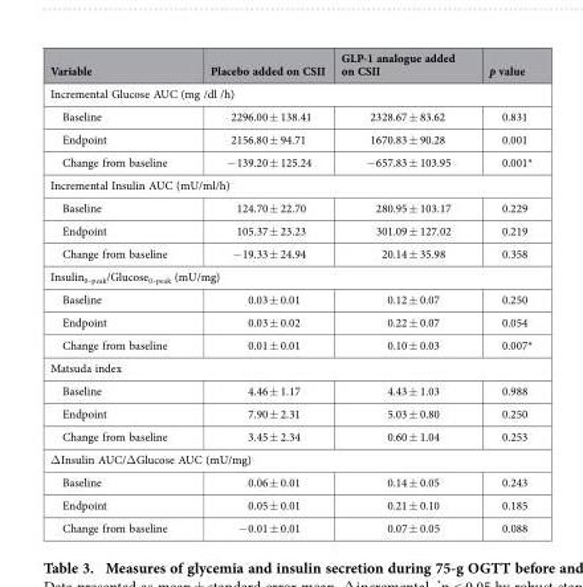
<table><thead><tr><td>Variable</td><td>Placebo added on CSII</td><td>GLP-1 analogue added on CSII</td><td>p value</td></tr></thead><tbody><tr><td colspan="4">Incremental Glucose AUC (mg /dl /h)</td></tr><tr><td>Baseline</td><td>2296.00 ± 138.41</td><td>2328.67 ± 83.62</td><td>0.831</td></tr><tr><td>Endpoint</td><td>2156.80 ± 94.71</td><td>1670.83 ± 90.28</td><td>0.001</td></tr><tr><td>Change from baseline</td><td>− 139.20 ± 125.24</td><td>− 657.83 ± 103.95</td><td>0.001*</td></tr><tr><td colspan="4">Incremental Insulin AUC (mU/ml/h)</td></tr><tr><td>Baseline</td><td>124.70 ± 22.70</td><td>280.95 ± 103.17</td><td>0.229</td></tr><tr><td>Endpoint</td><td>105.37 ± 23.23</td><td>301.09 ± 127.02</td><td>0.219</td></tr><tr><td>Change from baseline</td><td>− 19.33 ± 24.94</td><td>20.14 ± 35.98</td><td>0.358</td></tr><tr><td colspan="4">Insulin<sub>0–peak</sub>/Glucose<sub>0–peak</sub> (mU/mg)</td></tr><tr><td>Baseline</td><td>0.03 ± 0.01</td><td>0.12 ± 0.07</td><td>0.250</td></tr><tr><td>Endpoint</td><td>0.03 ± 0.02</td><td>0.22 ± 0.07</td><td>0.054</td></tr><tr><td>Change from baseline</td><td>0.01 ± 0.01</td><td>0.10 ± 0.03</td><td>0.007*</td></tr><tr><td colspan="4">Matsuda index</td></tr><tr><td>Baseline</td><td>4.46 ± 1.17</td><td>4.43 ± 1.03</td><td>0.988</td></tr><tr><td>Endpoint</td><td>7.90 ± 2.31</td><td>5.03 ± 0.80</td><td>0.250</td></tr><tr><td>Change from baseline</td><td>3.45 ± 2.34</td><td>0.60 ± 1.04</td><td>0.253</td></tr><tr><td colspan="4">Δ Insulin AUC/Δ Glucose AUC (mU/mg)</td></tr><tr><td>Baseline</td><td>0.06 ± 0.01</td><td>0.14 ± 0.05</td><td>0.243</td></tr><tr><td>Endpoint</td><td>0.05 ± 0.01</td><td>0.21 ± 0.10</td><td>0.185</td></tr><tr><td>Change from baseline</td><td>− 0.01 ± 0.01</td><td>0.07 ± 0.05</td><td>0.088</td></tr></tbody></table>